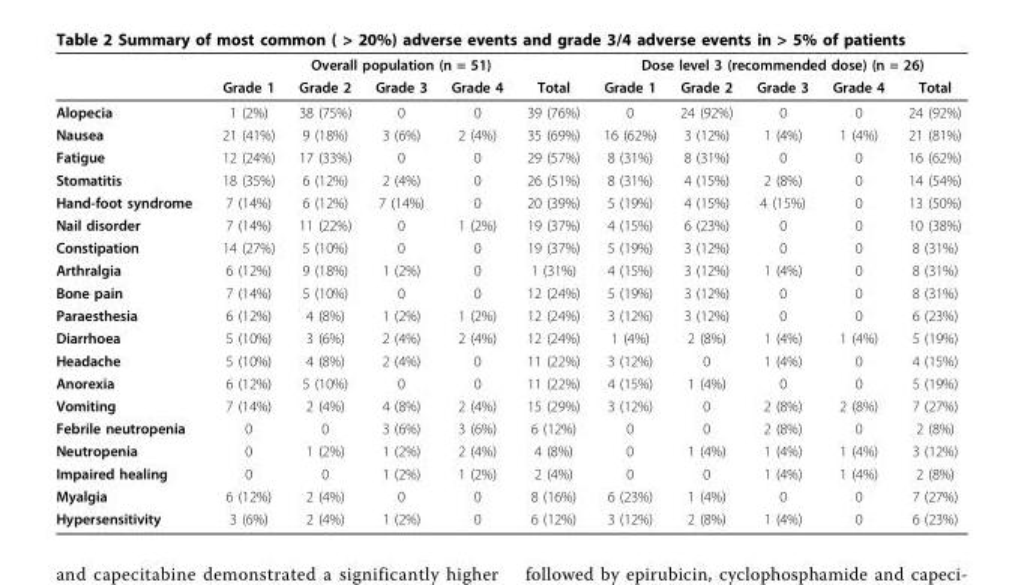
<table><thead><tr><td rowspan="2"></td><td colspan="5">Overall population (n = 51)</td><td colspan="5">Dose level 3 (recommended dose) (n = 26)</td></tr><tr><td>Grade 1</td><td>Grade 2</td><td>Grade 3</td><td>Grade 4</td><td>Total</td><td>Grade 1</td><td>Grade 2</td><td>Grade 3</td><td>Grade 4</td><td>Total</td></tr></thead><tbody><tr><td>Alopecia</td><td>1 (2%)</td><td>38 (75%)</td><td>0</td><td>0</td><td>39 (76%)</td><td>0</td><td>24 (92%)</td><td>0</td><td>0</td><td>24 (92%)</td></tr><tr><td>Nausea</td><td>21 (41%)</td><td>9 (18%)</td><td>3 (6%)</td><td>2 (4%)</td><td>35 (69%)</td><td>16 (62%)</td><td>3 (12%)</td><td>1 (4%)</td><td>1 (4%)</td><td>21 (81%)</td></tr><tr><td>Fatigue</td><td>12 (24%)</td><td>17 (33%)</td><td>0</td><td>0</td><td>29 (57%)</td><td>8 (31%)</td><td>8 (31%)</td><td>0</td><td>0</td><td>16 (62%)</td></tr><tr><td>Stomatitis</td><td>18 (35%)</td><td>6 (12%)</td><td>2 (4%)</td><td>0</td><td>26 (51%)</td><td>8 (31%)</td><td>4 (15%)</td><td>2 (8%)</td><td>0</td><td>14 (54%)</td></tr><tr><td>Hand-foot syndrome</td><td>7 (14%)</td><td>6 (12%)</td><td>7 (14%)</td><td>0</td><td>20 (39%)</td><td>5 (19%)</td><td>4 (15%)</td><td>4 (15%)</td><td>0</td><td>13 (50%)</td></tr><tr><td>Nail disorder</td><td>7 (14%)</td><td>11 (22%)</td><td>0</td><td>1 (2%)</td><td>19 (37%)</td><td>4 (15%)</td><td>6 (23%)</td><td>0</td><td>0</td><td>10 (38%)</td></tr><tr><td>Constipation</td><td>14 (27%)</td><td>5 (10%)</td><td>0</td><td>0</td><td>19 (37%)</td><td>5 (19%)</td><td>3 (12%)</td><td>0</td><td>0</td><td>8 (31%)</td></tr><tr><td>Arthralgia</td><td>6 (12%)</td><td>9 (18%)</td><td>1 (2%)</td><td>0</td><td>1 (31%)</td><td>4 (15%)</td><td>3 (12%)</td><td>1 (4%)</td><td>0</td><td>8 (31%)</td></tr><tr><td>Bone pain</td><td>7 (14%)</td><td>5 (10%)</td><td>0</td><td>0</td><td>12 (24%)</td><td>5 (19%)</td><td>3 (12%)</td><td>0</td><td>0</td><td>8 (31%)</td></tr><tr><td>Paraesthesia</td><td>6 (12%)</td><td>4 (8%)</td><td>1 (2%)</td><td>1 (2%)</td><td>12 (24%)</td><td>3 (12%)</td><td>3 (12%)</td><td>0</td><td>0</td><td>6 (23%)</td></tr><tr><td>Diarrhoea</td><td>5 (10%)</td><td>3 (6%)</td><td>2 (4%)</td><td>2 (4%)</td><td>12 (24%)</td><td>1 (4%)</td><td>2 (8%)</td><td>1 (4%)</td><td>1 (4%)</td><td>5 (19%)</td></tr><tr><td>Headache</td><td>5 (10%)</td><td>4 (8%)</td><td>2 (4%)</td><td>0</td><td>11 (22%)</td><td>3 (12%)</td><td>0</td><td>1 (4%)</td><td>0</td><td>4 (15%)</td></tr><tr><td>Anorexia</td><td>6 (12%)</td><td>5 (10%)</td><td>0</td><td>0</td><td>11 (22%)</td><td>4 (15%)</td><td>1 (4%)</td><td>0</td><td>0</td><td>5 (19%)</td></tr><tr><td>Vomiting</td><td>7 (14%)</td><td>2 (4%)</td><td>4 (8%)</td><td>2 (4%)</td><td>15 (29%)</td><td>3 (12%)</td><td>0</td><td>2 (8%)</td><td>2 (8%)</td><td>7 (27%)</td></tr><tr><td>Febrile neutropenia</td><td>0</td><td>0</td><td>3 (6%)</td><td>3 (6%)</td><td>6 (12%)</td><td>0</td><td>0</td><td>2 (8%)</td><td>0</td><td>2 (8%)</td></tr><tr><td>Neutropenia</td><td>0</td><td>1 (2%)</td><td>1 (2%)</td><td>2 (4%)</td><td>4 (8%)</td><td>0</td><td>1 (4%)</td><td>1 (4%)</td><td>1 (4%)</td><td>3 (12%)</td></tr><tr><td>Impaired healing</td><td>0</td><td>0</td><td>1 (2%)</td><td>1 (2%)</td><td>2 (4%)</td><td>0</td><td>0</td><td>1 (4%)</td><td>1 (4%)</td><td>2 (8%)</td></tr><tr><td>Myalgia</td><td>6 (12%)</td><td>2 (4%)</td><td>0</td><td>0</td><td>8 (16%)</td><td>6 (23%)</td><td>1 (4%)</td><td>0</td><td>0</td><td>7 (27%)</td></tr><tr><td>Hypersensitivity</td><td>3 (6%)</td><td>2 (4%)</td><td>1 (2%)</td><td>0</td><td>6 (12%)</td><td>3 (12%)</td><td>2 (8%)</td><td>1 (4%)</td><td>0</td><td>6 (23%)</td></tr></tbody></table>